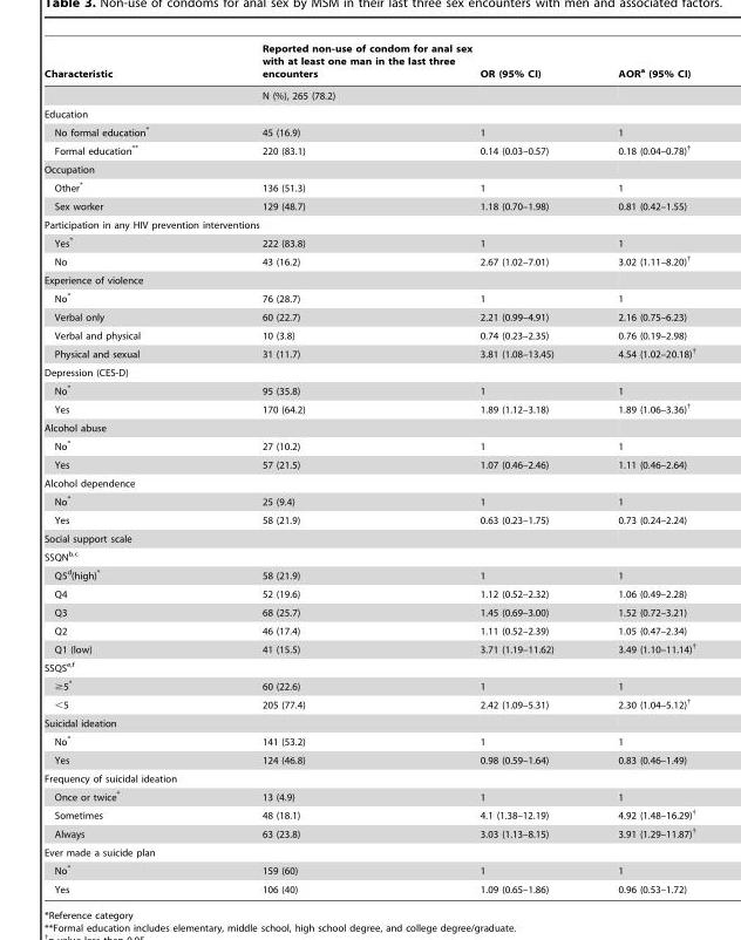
<table><thead><tr><td>Characteristic</td><td>Reported non-use of condom for anal sex with at least one man in the last three encounters</td><td>OR (95% CI)</td><td>AOR<sup>a</sup> (95% CI)</td></tr></thead><tbody><tr><td></td><td>N (%), 265 (78.2)</td><td></td><td></td></tr><tr><td colspan="4">Education</td></tr><tr><td>No formal education*</td><td>45 (16.9)</td><td>1</td><td>1</td></tr><tr><td>Formal education**</td><td>220 (83.1)</td><td>0.14 (0.03–0.57)</td><td>0.18 (0.04–0.78)†</td></tr><tr><td colspan="4">Occupation</td></tr><tr><td>Other*</td><td>136 (51.3)</td><td>1</td><td>1</td></tr><tr><td>Sex worker</td><td>129 (48.7)</td><td>1.18 (0.70–1.98)</td><td>0.81 (0.42–1.55)</td></tr><tr><td colspan="4">Participation in any HIV prevention interventions</td></tr><tr><td>Yes*</td><td>222 (83.8)</td><td>1</td><td>1</td></tr><tr><td>No</td><td>43 (16.2)</td><td>2.67 (1.02–7.01)</td><td>3.02 (1.11–8.20)†</td></tr><tr><td colspan="4">Experience of violence</td></tr><tr><td>No*</td><td>76 (28.7)</td><td>1</td><td>1</td></tr><tr><td>Verbal only</td><td>60 (22.7)</td><td>2.21 (0.99–4.91)</td><td>2.16 (0.75–6.23)</td></tr><tr><td>Verbal and physical</td><td>10 (3.8)</td><td>0.74 (0.23–2.35)</td><td>0.76 (0.19–2.98)</td></tr><tr><td>Physical and sexual</td><td>31 (11.7)</td><td>3.81 (1.08–13.45)</td><td>4.54 (1.02–20.18)†</td></tr><tr><td colspan="4">Depression (CES-D)</td></tr><tr><td>No*</td><td>95 (35.8)</td><td>1</td><td>1</td></tr><tr><td>Yes</td><td>170 (64.2)</td><td>1.89 (1.12–3.18)</td><td>1.89 (1.06–3.36)†</td></tr><tr><td colspan="4">Alcohol abuse</td></tr><tr><td>No*</td><td>27 (10.2)</td><td>1</td><td>1</td></tr><tr><td>Yes</td><td>57 (21.5)</td><td>1.07 (0.46–2.46)</td><td>1.11 (0.46–2.64)</td></tr><tr><td colspan="4">Alcohol dependence</td></tr><tr><td>No*</td><td>25 (9.4)</td><td>1</td><td>1</td></tr><tr><td>Yes</td><td>58 (21.9)</td><td>0.63 (0.23–1.75)</td><td>0.73 (0.24–2.24)</td></tr><tr><td colspan="4">Social support scale</td></tr><tr><td colspan="4">SSQNb,c</td></tr><tr><td>Q5<sup>d</sup>(high)*</td><td>58 (21.9)</td><td>1</td><td>1</td></tr><tr><td>Q4</td><td>52 (19.6)</td><td>1.12 (0.52–2.32)</td><td>1.06 (0.49–2.28)</td></tr><tr><td>Q3</td><td>68 (25.7)</td><td>1.45 (0.69–3.00)</td><td>1.52 (0.72–3.21)</td></tr><tr><td>Q2</td><td>46 (17.4)</td><td>1.11 (0.52–2.39)</td><td>1.05 (0.47–2.34)</td></tr><tr><td>Q1 (low)</td><td>41 (15.5)</td><td>3.71 (1.19–11.62)</td><td>3.49 (1.10–11.14)†</td></tr><tr><td colspan="4">SSQSe,f</td></tr><tr><td>≥5*</td><td>60 (22.6)</td><td>1</td><td>1</td></tr><tr><td>&lt;5</td><td>205 (77.4)</td><td>2.42 (1.09–5.31)</td><td>2.30 (1.04–5.12)†</td></tr><tr><td colspan="4">Suicidal ideation</td></tr><tr><td>No*</td><td>141 (53.2)</td><td>1</td><td>1</td></tr><tr><td>Yes</td><td>124 (46.8)</td><td>0.98 (0.59–1.64)</td><td>0.83 (0.46–1.49)</td></tr><tr><td colspan="4">Frequency of suicidal ideation</td></tr><tr><td>Once or twice*</td><td>13 (4.9)</td><td>1</td><td>1</td></tr><tr><td>Sometimes</td><td>48 (18.1)</td><td>4.1 (1.38–12.19)</td><td>4.92 (1.48–16.29)†</td></tr><tr><td>Always</td><td>63 (23.8)</td><td>3.03 (1.13–8.15)</td><td>3.91 (1.29–11.87)†</td></tr><tr><td colspan="4">Ever made a suicide plan</td></tr><tr><td>No*</td><td>159 (60)</td><td>1</td><td>1</td></tr><tr><td>Yes</td><td>106 (40)</td><td>1.09 (0.65–1.86)</td><td>0.96 (0.53–1.72)</td></tr></tbody></table>